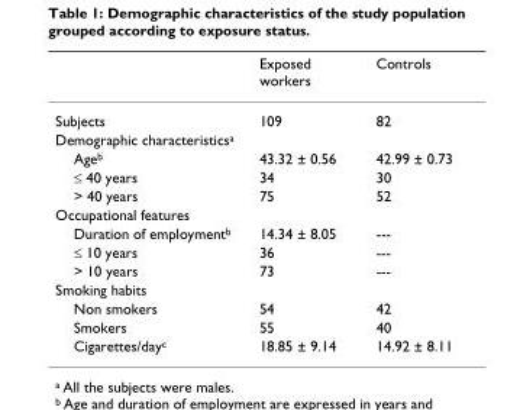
<table><thead><tr><td></td><td>Exposed workers</td><td>Controls</td></tr></thead><tbody><tr><td>Subjects</td><td>109</td><td>82</td></tr><tr><td colspan="3">Demographic characteristics<sup>a</sup></td></tr><tr><td>Age<sup>b</sup></td><td>43.32 ± 0.56</td><td>42.99 ± 0.73</td></tr><tr><td>≤ 40 years</td><td>34</td><td>30</td></tr><tr><td>&gt; 40 years</td><td>75</td><td>52</td></tr><tr><td colspan="3">Occupational features</td></tr><tr><td>Duration of employment<sup>b</sup></td><td>14.34 ± 8.05</td><td>---</td></tr><tr><td>≤ 10 years</td><td>36</td><td>---</td></tr><tr><td>&gt; 10 years</td><td>73</td><td>---</td></tr><tr><td colspan="3">Smoking habits</td></tr><tr><td>Non smokers</td><td>54</td><td>42</td></tr><tr><td>Smokers</td><td>55</td><td>40</td></tr><tr><td>Cigarettes/day<sup>c</sup></td><td>18.85 ± 9.14</td><td>14.92 ± 8.11</td></tr></tbody></table>